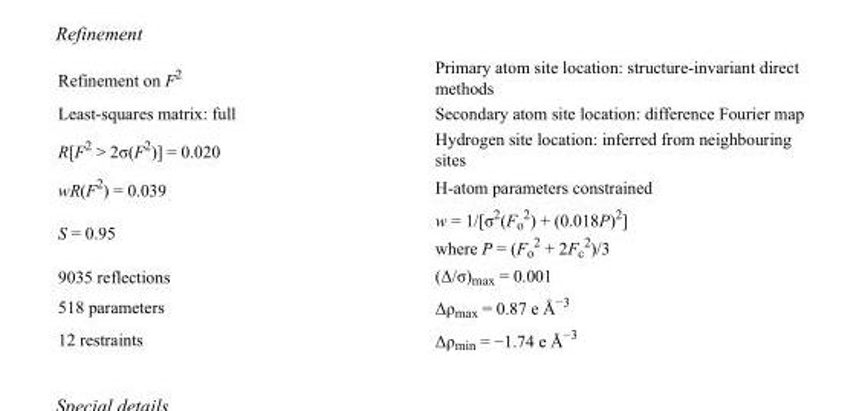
<table><tbody><tr><td>Refinement on F<sup>2</sup></td><td>Primary atom site location: structure-invariant direct methods</td></tr><tr><td>Least-squares matrix: full</td><td>Secondary atom site location: difference Fourier map</td></tr><tr><td>R[F<sup>2</sup> &gt; 2σ(F<sup>2</sup>)] = 0.020</td><td>Hydrogen site location: inferred from neighbouring sites</td></tr><tr><td>wR(F<sup>2</sup>) = 0.039</td><td>H-atom parameters constrained</td></tr><tr><td>S = 0.95</td><td>w = 1/[σ<sup>2</sup>(F<sub>o</sub> <sup>2</sup>) + (0.018P)<sup>2</sup>] where P = (F<sub>o</sub> <sup>2</sup> + 2F<sub>c</sub> <sup>2</sup>)/3</td></tr><tr><td>9035 reflections</td><td>(Δ/σ)<sub>max</sub> = 0.001</td></tr><tr><td>518 parameters</td><td>Δρ<sub>max</sub> = 0.87 e Å<sup>−3</sup></td></tr><tr><td>12 restraints</td><td>Δρ<sub>min</sub> = −1.74 e Å<sup>−3</sup></td></tr></tbody></table>